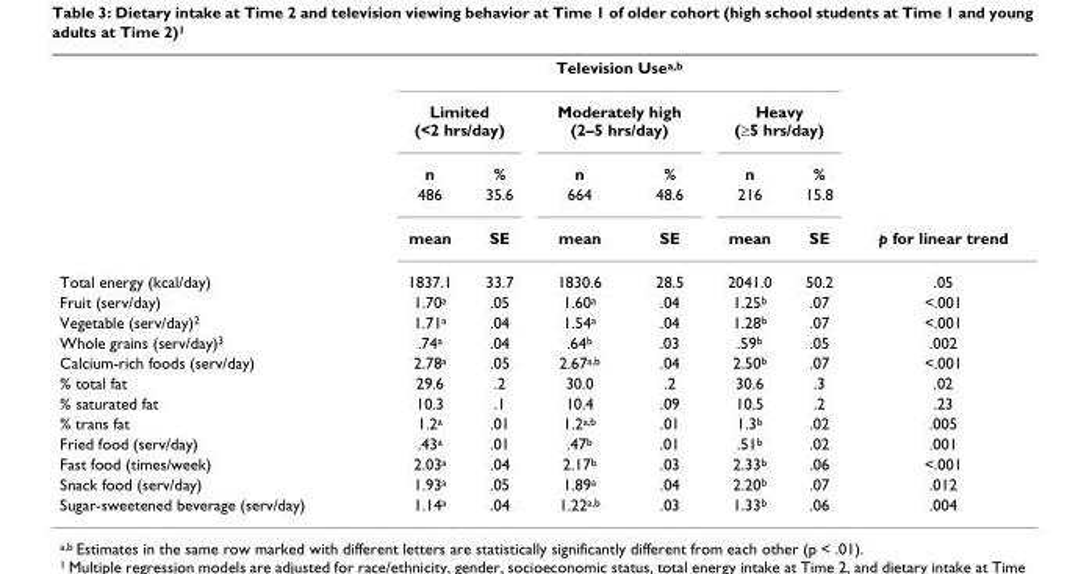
<table><thead><tr><td rowspan="3"></td><td colspan="6">Television Use<sup>a,b</sup></td><td rowspan="3"></td></tr><tr><td colspan="2">Limited (&lt;2 hrs/day)</td><td colspan="2">Moderately high (2–5 hrs/day)</td><td colspan="2">Heavy (≥5 hrs/day)</td></tr><tr><td>n</td><td>%</td><td>n</td><td>%</td><td>n</td><td>%</td></tr></thead><tbody><tr><td></td><td>486</td><td>35.6</td><td>664</td><td>48.6</td><td>216</td><td>15.8</td><td></td></tr><tr><td></td><td>mean</td><td>SE</td><td>mean</td><td>SE</td><td>mean</td><td>SE</td><td>p for linear trend</td></tr><tr><td>Total energy (kcal/day)</td><td>1837.1</td><td>33.7</td><td>1830.6</td><td>28.5</td><td>2041.0</td><td>50.2</td><td>.05</td></tr><tr><td>Fruit (serv/day)</td><td>1.70<sup>a</sup></td><td>.05</td><td>1.60<sup>a</sup></td><td>.04</td><td>1.25<sup>b</sup></td><td>.07</td><td>&lt;.001</td></tr><tr><td>Vegetable (serv/day)<sup>2</sup></td><td>1.71<sup>a</sup></td><td>.04</td><td>1.54<sup>a</sup></td><td>.04</td><td>1.28<sup>b</sup></td><td>.07</td><td>&lt;.001</td></tr><tr><td>Whole grains (serv/day)<sup>3</sup></td><td>.74<sup>a</sup></td><td>.04</td><td>.64<sup>b</sup></td><td>.03</td><td>.59<sup>b</sup></td><td>.05</td><td>.002</td></tr><tr><td>Calcium-rich foods (serv/day)</td><td>2.78<sup>a</sup></td><td>.05</td><td>2.67<sup>a,b</sup></td><td>.04</td><td>2.50<sup>b</sup></td><td>.07</td><td>&lt;.001</td></tr><tr><td>% total fat</td><td>29.6</td><td>.2</td><td>30.0</td><td>.2</td><td>30.6</td><td>.3</td><td>.02</td></tr><tr><td>% saturated fat</td><td>10.3</td><td>.1</td><td>10.4</td><td>.09</td><td>10.5</td><td>.2</td><td>.23</td></tr><tr><td>% trans fat</td><td>1.2<sup>a</sup></td><td>.01</td><td>1.2<sup>a,b</sup></td><td>.01</td><td>1.3<sup>b</sup></td><td>.02</td><td>.005</td></tr><tr><td>Fried food (serv/day)</td><td>.43<sup>a</sup></td><td>.01</td><td>.47<sup>b</sup></td><td>.01</td><td>.51<sup>b</sup></td><td>.02</td><td>.001</td></tr><tr><td>Fast food (times/week)</td><td>2.03<sup>a</sup></td><td>.04</td><td>2.17<sup>b</sup></td><td>.03</td><td>2.33<sup>b</sup></td><td>.06</td><td>&lt;.001</td></tr><tr><td>Snack food (serv/day)</td><td>1.93<sup>a</sup></td><td>.05</td><td>1.89<sup>a</sup></td><td>.04</td><td>2.20<sup>b</sup></td><td>.07</td><td>.012</td></tr><tr><td>Sugar-sweetened beverage (serv/day)</td><td>1.14<sup>a</sup></td><td>.04</td><td>1.22<sup>a,b</sup></td><td>.03</td><td>1.33<sup>b</sup></td><td>.06</td><td>.004</td></tr></tbody></table>